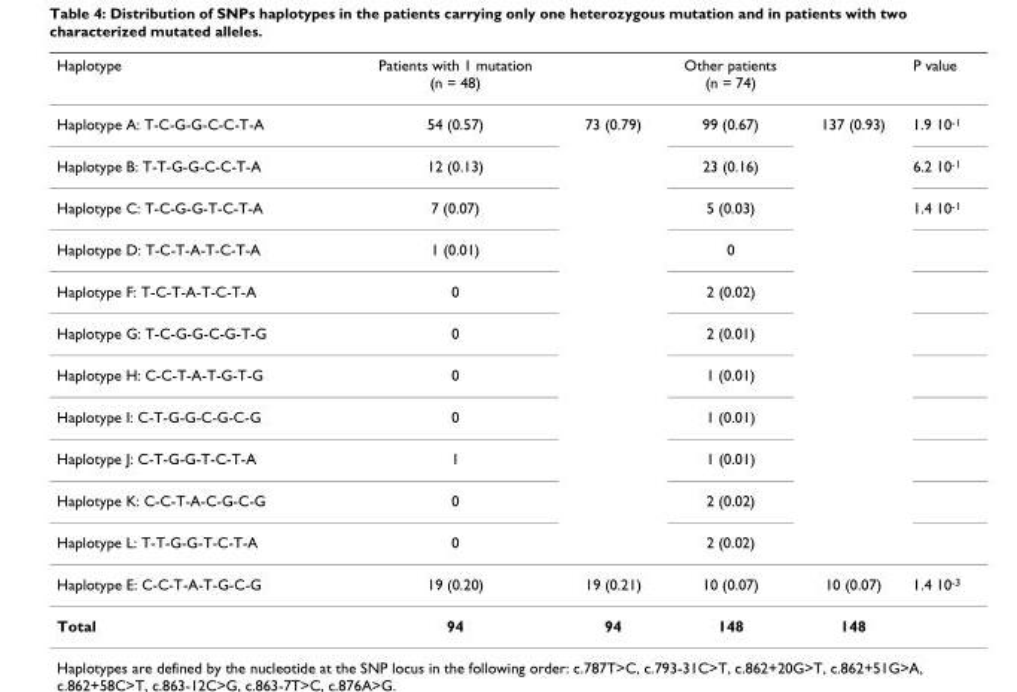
<table><thead><tr><td>Haplotype</td><td>Patients with 1 mutation (n = 48)</td><td></td><td>Other patients (n = 74)</td><td></td><td>P value</td></tr></thead><tbody><tr><td>Haplotype A: T-C-G-G-C-C-T-A</td><td>54 (0.57)</td><td>73 (0.79)</td><td>99 (0.67)</td><td>137 (0.93)</td><td>1.9 10<sup>-1</sup></td></tr><tr><td>Haplotype B: T-T-G-G-C-C-T-A</td><td>12 (0.13)</td><td></td><td>23 (0.16)</td><td></td><td>6.2 10<sup>-1</sup></td></tr><tr><td>Haplotype C: T-C-G-G-T-C-T-A</td><td>7 (0.07)</td><td></td><td>5 (0.03)</td><td></td><td>1.4 10<sup>-1</sup></td></tr><tr><td>Haplotype D: T-C-T-A-T-C-T-A</td><td>1 (0.01)</td><td></td><td>0</td><td></td><td></td></tr><tr><td>Haplotype F: T-C-T-A-T-C-T-A</td><td>0</td><td></td><td>2 (0.02)</td><td></td><td></td></tr><tr><td>Haplotype G: T-C-G-G-C-G-T-G</td><td>0</td><td></td><td>2 (0.01)</td><td></td><td></td></tr><tr><td>Haplotype H: C-C-T-A-T-G-T-G</td><td>0</td><td></td><td>1 (0.01)</td><td></td><td></td></tr><tr><td>Haplotype I: C-T-G-G-C-G-C-G</td><td>0</td><td></td><td>1 (0.01)</td><td></td><td></td></tr><tr><td>Haplotype J: C-T-G-G-T-C-T-A</td><td>1</td><td></td><td>1 (0.01)</td><td></td><td></td></tr><tr><td>Haplotype K: C-C-T-A-C-G-C-G</td><td>0</td><td></td><td>2 (0.02)</td><td></td><td></td></tr><tr><td>Haplotype L: T-T-G-G-T-C-T-A</td><td>0</td><td></td><td>2 (0.02)</td><td></td><td></td></tr><tr><td>Haplotype E: C-C-T-A-T-G-C-G</td><td>19 (0.20)</td><td>19 (0.21)</td><td>10 (0.07)</td><td>10 (0.07)</td><td>1.4 10<sup>-3</sup></td></tr><tr><td>Total</td><td>94</td><td>94</td><td>148</td><td>148</td><td></td></tr></tbody></table>